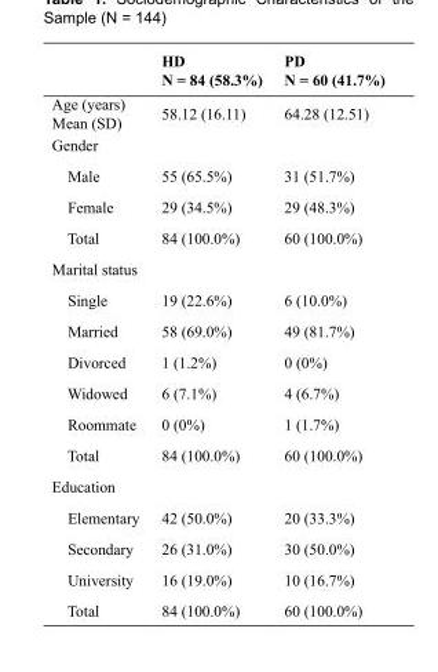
<table><thead><tr><td></td><td>HD N = 84 (58.3%)</td><td>PD N = 60 (41.7%)</td></tr></thead><tbody><tr><td>Age (years) Mean (SD)</td><td>58.12 (16.11)</td><td>64.28 (12.51)</td></tr><tr><td colspan="3">Gender</td></tr><tr><td>Male</td><td>55 (65.5%)</td><td>31 (51.7%)</td></tr><tr><td>Female</td><td>29 (34.5%)</td><td>29 (48.3%)</td></tr><tr><td>Total</td><td>84 (100.0%)</td><td>60 (100.0%)</td></tr><tr><td colspan="3">Marital status</td></tr><tr><td>Single</td><td>19 (22.6%)</td><td>6 (10.0%)</td></tr><tr><td>Married</td><td>58 (69.0%)</td><td>49 (81.7%)</td></tr><tr><td>Divorced</td><td>1 (1.2%)</td><td>0 (0%)</td></tr><tr><td>Widowed</td><td>6 (7.1%)</td><td>4 (6.7%)</td></tr><tr><td>Roommate</td><td>0 (0%)</td><td>1 (1.7%)</td></tr><tr><td>Total</td><td>84 (100.0%)</td><td>60 (100.0%)</td></tr><tr><td colspan="3">Education</td></tr><tr><td>Elementary</td><td>42 (50.0%)</td><td>20 (33.3%)</td></tr><tr><td>Secondary</td><td>26 (31.0%)</td><td>30 (50.0%)</td></tr><tr><td>University</td><td>16 (19.0%)</td><td>10 (16.7%)</td></tr><tr><td>Total</td><td>84 (100.0%)</td><td>60 (100.0%)</td></tr></tbody></table>